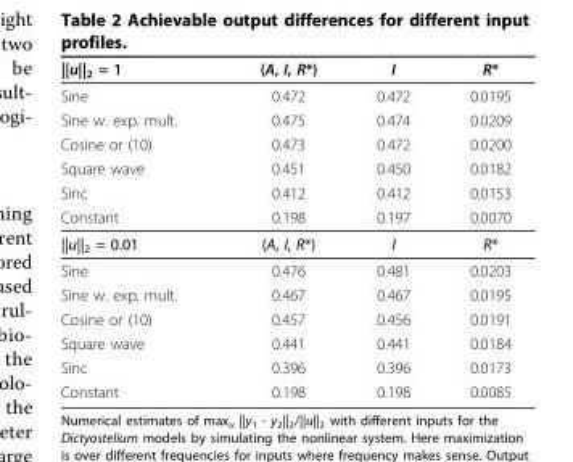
<table><thead><tr><td>||u||<sub>2</sub> = 1</td><td>(A, I, R*)</td><td>I</td><td>R*</td></tr></thead><tbody><tr><td>Sine</td><td>0.472</td><td>0.472</td><td>0.0195</td></tr><tr><td>Sine w. exp. mult.</td><td>0.475</td><td>0.474</td><td>0.0209</td></tr><tr><td>Cosine or (10)</td><td>0.473</td><td>0.472</td><td>0.0200</td></tr><tr><td>Square wave</td><td>0.451</td><td>0.450</td><td>0.0182</td></tr><tr><td>Sinc</td><td>0.412</td><td>0.412</td><td>0.0153</td></tr><tr><td>Constant</td><td>0.198</td><td>0.197</td><td>0.0070</td></tr><tr><td>||u||<sub>2</sub> = 0.01</td><td>(A, I, R*)</td><td>I</td><td>R*</td></tr><tr><td>Sine</td><td>0.476</td><td>0.481</td><td>0.0203</td></tr><tr><td>Sine w. exp. mult.</td><td>0.467</td><td>0.467</td><td>0.0195</td></tr><tr><td>Cosine or (10)</td><td>0.457</td><td>0.456</td><td>0.0191</td></tr><tr><td>Square wave</td><td>0.441</td><td>0.441</td><td>0.0184</td></tr><tr><td>Sinc</td><td>0.396</td><td>0.396</td><td>0.0173</td></tr><tr><td>Constant</td><td>0.198</td><td>0.198</td><td>0.0085</td></tr></tbody></table>